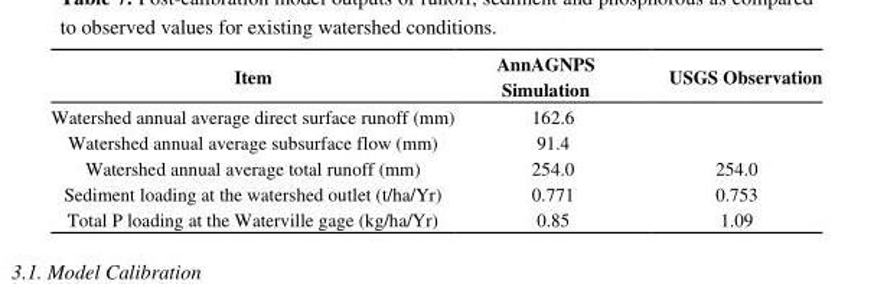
<table><thead><tr><td>Item</td><td>AnnAGNPS Simulation</td><td>USGS Observation</td></tr></thead><tbody><tr><td>Watershed annual average direct surface runoff (mm)</td><td>162.6</td><td></td></tr><tr><td>Watershed annual average subsurface flow (mm)</td><td>91.4</td><td></td></tr><tr><td>Watershed annual average total runoff (mm)</td><td>254.0</td><td>254.0</td></tr><tr><td>Sediment loading at the watershed outlet (t/ha/Yr)</td><td>0.771</td><td>0.753</td></tr><tr><td>Total P loading at the Waterville gage (kg/ha/Yr)</td><td>0.85</td><td>1.09</td></tr></tbody></table>